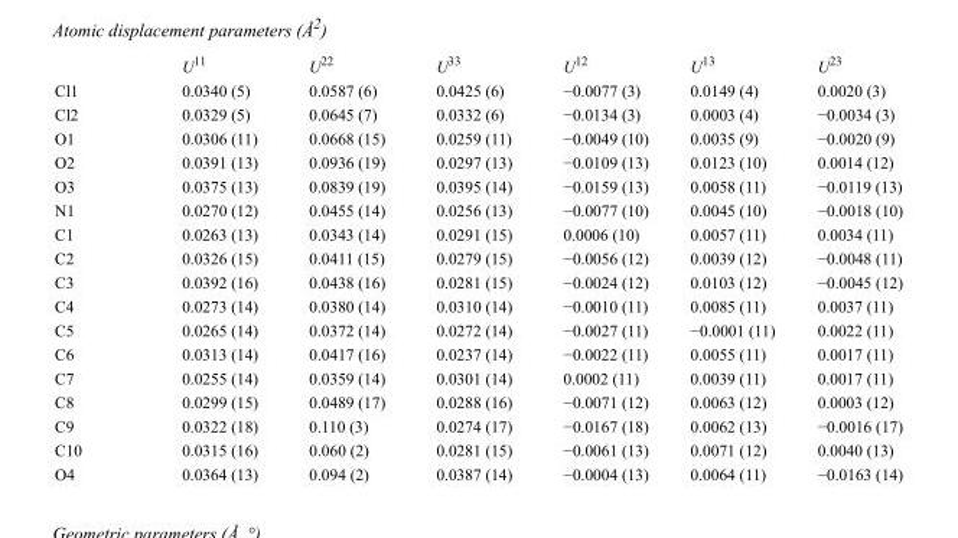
<table><thead><tr><td></td><td>U<sup>11</sup></td><td>U<sup>22</sup></td><td>U<sup>33</sup></td><td>U<sup>12</sup></td><td>U<sup>13</sup></td><td>U<sup>23</sup></td></tr></thead><tbody><tr><td>Cl1</td><td>0.0340 (5)</td><td>0.0587 (6)</td><td>0.0425 (6)</td><td>−0.0077 (3)</td><td>0.0149 (4)</td><td>0.0020 (3)</td></tr><tr><td>Cl2</td><td>0.0329 (5)</td><td>0.0645 (7)</td><td>0.0332 (6)</td><td>−0.0134 (3)</td><td>0.0003 (4)</td><td>−0.0034 (3)</td></tr><tr><td>O1</td><td>0.0306 (11)</td><td>0.0668 (15)</td><td>0.0259 (11)</td><td>−0.0049 (10)</td><td>0.0035 (9)</td><td>−0.0020 (9)</td></tr><tr><td>O2</td><td>0.0391 (13)</td><td>0.0936 (19)</td><td>0.0297 (13)</td><td>−0.0109 (13)</td><td>0.0123 (10)</td><td>0.0014 (12)</td></tr><tr><td>O3</td><td>0.0375 (13)</td><td>0.0839 (19)</td><td>0.0395 (14)</td><td>−0.0159 (13)</td><td>0.0058 (11)</td><td>−0.0119 (13)</td></tr><tr><td>N1</td><td>0.0270 (12)</td><td>0.0455 (14)</td><td>0.0256 (13)</td><td>−0.0077 (10)</td><td>0.0045 (10)</td><td>−0.0018 (10)</td></tr><tr><td>C1</td><td>0.0263 (13)</td><td>0.0343 (14)</td><td>0.0291 (15)</td><td>0.0006 (10)</td><td>0.0057 (11)</td><td>0.0034 (11)</td></tr><tr><td>C2</td><td>0.0326 (15)</td><td>0.0411 (15)</td><td>0.0279 (15)</td><td>−0.0056 (12)</td><td>0.0039 (12)</td><td>−0.0048 (11)</td></tr><tr><td>C3</td><td>0.0392 (16)</td><td>0.0438 (16)</td><td>0.0281 (15)</td><td>−0.0024 (12)</td><td>0.0103 (12)</td><td>−0.0045 (12)</td></tr><tr><td>C4</td><td>0.0273 (14)</td><td>0.0380 (14)</td><td>0.0310 (14)</td><td>−0.0010 (11)</td><td>0.0085 (11)</td><td>0.0037 (11)</td></tr><tr><td>C5</td><td>0.0265 (14)</td><td>0.0372 (14)</td><td>0.0272 (14)</td><td>−0.0027 (11)</td><td>−0.0001 (11)</td><td>0.0022 (11)</td></tr><tr><td>C6</td><td>0.0313 (14)</td><td>0.0417 (16)</td><td>0.0237 (14)</td><td>−0.0022 (11)</td><td>0.0055 (11)</td><td>0.0017 (11)</td></tr><tr><td>C7</td><td>0.0255 (14)</td><td>0.0359 (14)</td><td>0.0301 (14)</td><td>0.0002 (11)</td><td>0.0039 (11)</td><td>0.0017 (11)</td></tr><tr><td>C8</td><td>0.0299 (15)</td><td>0.0489 (17)</td><td>0.0288 (16)</td><td>−0.0071 (12)</td><td>0.0063 (12)</td><td>0.0003 (12)</td></tr><tr><td>C9</td><td>0.0322 (18)</td><td>0.110 (3)</td><td>0.0274 (17)</td><td>−0.0167 (18)</td><td>0.0062 (13)</td><td>−0.0016 (17)</td></tr><tr><td>C10</td><td>0.0315 (16)</td><td>0.060 (2)</td><td>0.0281 (15)</td><td>−0.0061 (13)</td><td>0.0071 (12)</td><td>0.0040 (13)</td></tr><tr><td>O4</td><td>0.0364 (13)</td><td>0.094 (2)</td><td>0.0387 (14)</td><td>−0.0004 (13)</td><td>0.0064 (11)</td><td>−0.0163 (14)</td></tr></tbody></table>